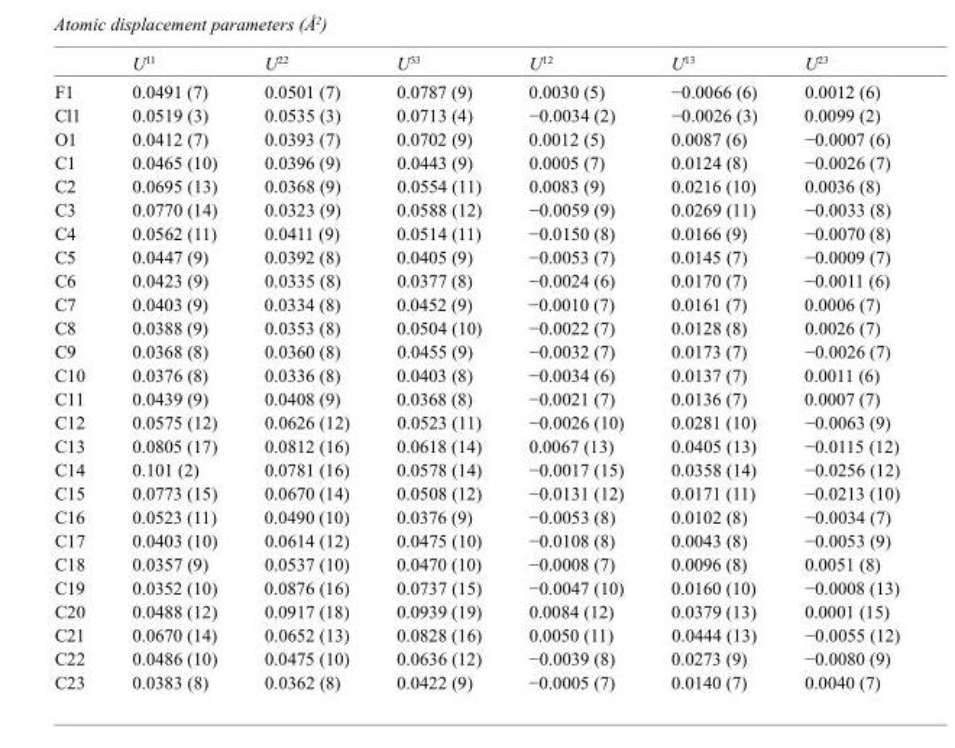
<table><thead><tr><td></td><td>U<sup>11</sup></td><td>U<sup>22</sup></td><td>U<sup>33</sup></td><td>U<sup>12</sup></td><td>U<sup>13</sup></td><td>U<sup>23</sup></td></tr></thead><tbody><tr><td>F1</td><td>0.0491 (7)</td><td>0.0501 (7)</td><td>0.0787 (9)</td><td>0.0030 (5)</td><td>−0.0066 (6)</td><td>0.0012 (6)</td></tr><tr><td>Cl1</td><td>0.0519 (3)</td><td>0.0535 (3)</td><td>0.0713 (4)</td><td>−0.0034 (2)</td><td>−0.0026 (3)</td><td>0.0099 (2)</td></tr><tr><td>O1</td><td>0.0412 (7)</td><td>0.0393 (7)</td><td>0.0702 (9)</td><td>0.0012 (5)</td><td>0.0087 (6)</td><td>−0.0007 (6)</td></tr><tr><td>C1</td><td>0.0465 (10)</td><td>0.0396 (9)</td><td>0.0443 (9)</td><td>0.0005 (7)</td><td>0.0124 (8)</td><td>−0.0026 (7)</td></tr><tr><td>C2</td><td>0.0695 (13)</td><td>0.0368 (9)</td><td>0.0554 (11)</td><td>0.0083 (9)</td><td>0.0216 (10)</td><td>0.0036 (8)</td></tr><tr><td>C3</td><td>0.0770 (14)</td><td>0.0323 (9)</td><td>0.0588 (12)</td><td>−0.0059 (9)</td><td>0.0269 (11)</td><td>−0.0033 (8)</td></tr><tr><td>C4</td><td>0.0562 (11)</td><td>0.0411 (9)</td><td>0.0514 (11)</td><td>−0.0150 (8)</td><td>0.0166 (9)</td><td>−0.0070 (8)</td></tr><tr><td>C5</td><td>0.0447 (9)</td><td>0.0392 (8)</td><td>0.0405 (9)</td><td>−0.0053 (7)</td><td>0.0145 (7)</td><td>−0.0009 (7)</td></tr><tr><td>C6</td><td>0.0423 (9)</td><td>0.0335 (8)</td><td>0.0377 (8)</td><td>−0.0024 (6)</td><td>0.0170 (7)</td><td>−0.0011 (6)</td></tr><tr><td>C7</td><td>0.0403 (9)</td><td>0.0334 (8)</td><td>0.0452 (9)</td><td>−0.0010 (7)</td><td>0.0161 (7)</td><td>0.0006 (7)</td></tr><tr><td>C8</td><td>0.0388 (9)</td><td>0.0353 (8)</td><td>0.0504 (10)</td><td>−0.0022 (7)</td><td>0.0128 (8)</td><td>0.0026 (7)</td></tr><tr><td>C9</td><td>0.0368 (8)</td><td>0.0360 (8)</td><td>0.0455 (9)</td><td>−0.0032 (7)</td><td>0.0173 (7)</td><td>−0.0026 (7)</td></tr><tr><td>C10</td><td>0.0376 (8)</td><td>0.0336 (8)</td><td>0.0403 (8)</td><td>−0.0034 (6)</td><td>0.0137 (7)</td><td>0.0011 (6)</td></tr><tr><td>C11</td><td>0.0439 (9)</td><td>0.0408 (9)</td><td>0.0368 (8)</td><td>−0.0021 (7)</td><td>0.0136 (7)</td><td>0.0007 (7)</td></tr><tr><td>C12</td><td>0.0575 (12)</td><td>0.0626 (12)</td><td>0.0523 (11)</td><td>−0.0026 (10)</td><td>0.0281 (10)</td><td>−0.0063 (9)</td></tr><tr><td>C13</td><td>0.0805 (17)</td><td>0.0812 (16)</td><td>0.0618 (14)</td><td>0.0067 (13)</td><td>0.0405 (13)</td><td>−0.0115 (12)</td></tr><tr><td>C14</td><td>0.101 (2)</td><td>0.0781 (16)</td><td>0.0578 (14)</td><td>−0.0017 (15)</td><td>0.0358 (14)</td><td>−0.0256 (12)</td></tr><tr><td>C15</td><td>0.0773 (15)</td><td>0.0670 (14)</td><td>0.0508 (12)</td><td>−0.0131 (12)</td><td>0.0171 (11)</td><td>−0.0213 (10)</td></tr><tr><td>C16</td><td>0.0523 (11)</td><td>0.0490 (10)</td><td>0.0376 (9)</td><td>−0.0053 (8)</td><td>0.0102 (8)</td><td>−0.0034 (7)</td></tr><tr><td>C17</td><td>0.0403 (10)</td><td>0.0614 (12)</td><td>0.0475 (10)</td><td>−0.0108 (8)</td><td>0.0043 (8)</td><td>−0.0053 (9)</td></tr><tr><td>C18</td><td>0.0357 (9)</td><td>0.0537 (10)</td><td>0.0470 (10)</td><td>−0.0008 (7)</td><td>0.0096 (8)</td><td>0.0051 (8)</td></tr><tr><td>C19</td><td>0.0352 (10)</td><td>0.0876 (16)</td><td>0.0737 (15)</td><td>−0.0047 (10)</td><td>0.0160 (10)</td><td>−0.0008 (13)</td></tr><tr><td>C20</td><td>0.0488 (12)</td><td>0.0917 (18)</td><td>0.0939 (19)</td><td>0.0084 (12)</td><td>0.0379 (13)</td><td>0.0001 (15)</td></tr><tr><td>C21</td><td>0.0670 (14)</td><td>0.0652 (13)</td><td>0.0828 (16)</td><td>0.0050 (11)</td><td>0.0444 (13)</td><td>−0.0055 (12)</td></tr><tr><td>C22</td><td>0.0486 (10)</td><td>0.0475 (10)</td><td>0.0636 (12)</td><td>−0.0039 (8)</td><td>0.0273 (9)</td><td>−0.0080 (9)</td></tr><tr><td>C23</td><td>0.0383 (8)</td><td>0.0362 (8)</td><td>0.0422 (9)</td><td>−0.0005 (7)</td><td>0.0140 (7)</td><td>0.0040 (7)</td></tr></tbody></table>